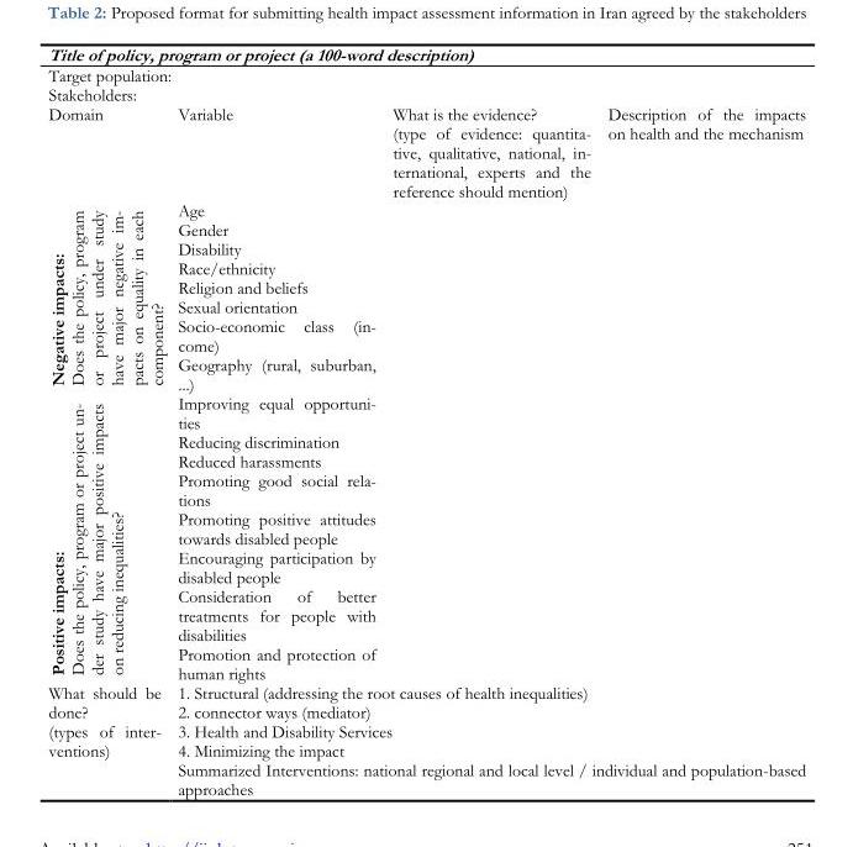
<table><thead><tr><td rowspan="3" colspan="4">Title of policy, program or project (a 100-word description) Target population: Stakeholders:</td></tr><tr></tr><tr></tr><tr><td>Domain</td><td>Variable</td><td>What is the evidence? (type of evidence: quantita- tive, qualitative, national, in- ternational, experts and the reference should mention)</td><td>Description of the impacts on health and the mechanism</td></tr></thead><tbody><tr><td rowspan="8">Negative impacts: Does the policy, program or project under study have major negative im- pacts on equality in each component?</td><td>Age</td><td></td><td></td></tr><tr><td>Gender</td><td></td><td></td></tr><tr><td>Disability</td><td></td><td></td></tr><tr><td>Race/ethnicity</td><td></td><td></td></tr><tr><td>Religion and beliefs</td><td></td><td></td></tr><tr><td>Sexual orientation</td><td></td><td></td></tr><tr><td>Socio-economic class (in- come)</td><td></td><td></td></tr><tr><td>Geography (rural, suburban, ...)</td><td></td><td></td></tr><tr><td rowspan="8">Positive impacts: Does the policy, program or project un- der study have major positive impacts on reducing inequalities?</td><td>Improving equal opportuni- ties</td><td></td><td></td></tr><tr><td>Reducing discrimination</td><td></td><td></td></tr><tr><td>Reduced harassments</td><td></td><td></td></tr><tr><td>Promoting good social rela- tions</td><td></td><td></td></tr><tr><td>Promoting positive attitudes towards disabled people</td><td></td><td></td></tr><tr><td>Encouraging participation by disabled people</td><td></td><td></td></tr><tr><td>Consideration of better treatments for people with disabilities</td><td></td><td></td></tr><tr><td>Promotion and protection of human rights</td><td></td><td></td></tr><tr><td rowspan="5">What should be done? (types of inter- ventions)</td><td colspan="3">1. Structural (addressing the root causes of health inequalities)</td></tr><tr><td colspan="3">2. connector ways (mediator)</td></tr><tr><td colspan="3">3. Health and Disability Services</td></tr><tr><td colspan="3">4. Minimizing the impact</td></tr><tr><td colspan="3">Summarized Interventions: national regional and local level / individual and population-based approaches</td></tr></tbody></table>